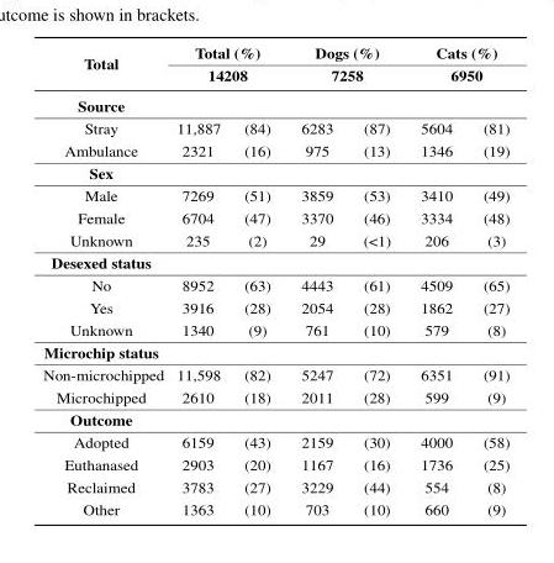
<table><thead><tr><td rowspan="3">Total Source</td><td rowspan="2" colspan="2">Total (%) 14208</td><td rowspan="2" colspan="2">Dogs (%) 7258</td><td rowspan="2" colspan="2">Cats (%) 6950</td></tr><tr></tr><tr><td></td><td></td><td></td><td></td><td></td><td></td></tr></thead><tbody><tr><td>Stray</td><td>11,887</td><td>(84)</td><td>6283</td><td>(87)</td><td>5604</td><td>(81)</td></tr><tr><td>Ambulance</td><td>2321</td><td>(16)</td><td>975</td><td>(13)</td><td>1346</td><td>(19)</td></tr><tr><td colspan="7">Sex</td></tr><tr><td>Male</td><td>7269</td><td>(51)</td><td>3859</td><td>(53)</td><td>3410</td><td>(49)</td></tr><tr><td>Female</td><td>6704</td><td>(47)</td><td>3370</td><td>(46)</td><td>3334</td><td>(48)</td></tr><tr><td>Unknown</td><td>235</td><td>(2)</td><td>29</td><td>(&lt;1)</td><td>206</td><td>(3)</td></tr><tr><td colspan="7">Desexed status</td></tr><tr><td>No</td><td>8952</td><td>(63)</td><td>4443</td><td>(61)</td><td>4509</td><td>(65)</td></tr><tr><td>Yes</td><td>3916</td><td>(28)</td><td>2054</td><td>(28)</td><td>1862</td><td>(27)</td></tr><tr><td>Unknown</td><td>1340</td><td>(9)</td><td>761</td><td>(10)</td><td>579</td><td>(8)</td></tr><tr><td colspan="7">Microchip status</td></tr><tr><td>Non-microchipped</td><td>11,598</td><td>(82)</td><td>5247</td><td>(72)</td><td>6351</td><td>(91)</td></tr><tr><td>Microchipped</td><td>2610</td><td>(18)</td><td>2011</td><td>(28)</td><td>599</td><td>(9)</td></tr><tr><td colspan="7">Outcome</td></tr><tr><td>Adopted</td><td>6159</td><td>(43)</td><td>2159</td><td>(30)</td><td>4000</td><td>(58)</td></tr><tr><td>Euthanased</td><td>2903</td><td>(20)</td><td>1167</td><td>(16)</td><td>1736</td><td>(25)</td></tr><tr><td>Reclaimed</td><td>3783</td><td>(27)</td><td>3229</td><td>(44)</td><td>554</td><td>(8)</td></tr><tr><td>Other</td><td>1363</td><td>(10)</td><td>703</td><td>(10)</td><td>660</td><td>(9)</td></tr></tbody></table>